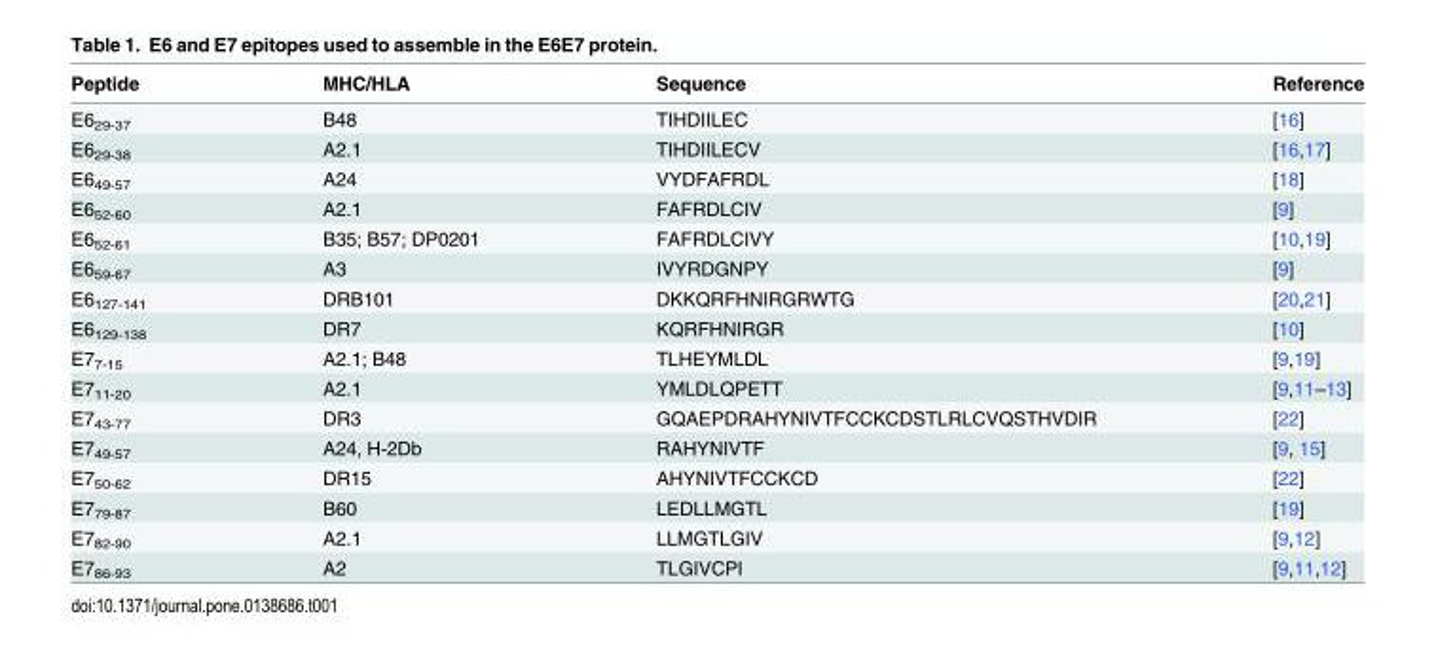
<table><thead><tr><td>Peptide</td><td>MHC/HLA</td><td>Sequence</td><td>Reference</td></tr></thead><tbody><tr><td>E6<sub>29-37</sub></td><td>B48</td><td>TIHDIILEC</td><td>[16]</td></tr><tr><td>E6<sub>29-38</sub></td><td>A2.1</td><td>TIHDIILECV</td><td>[16,17]</td></tr><tr><td>E6<sub>49-57</sub></td><td>A24</td><td>VYDFAFRDL</td><td>[18]</td></tr><tr><td>E6<sub>52-60</sub></td><td>A2.1</td><td>FAFRDLCIV</td><td>[9]</td></tr><tr><td>E6<sub>52-61</sub></td><td>B35; B57; DP0201</td><td>FAFRDLCIVY</td><td>[10,19]</td></tr><tr><td>E6<sub>59-67</sub></td><td>A3</td><td>IVYRDGNPY</td><td>[9]</td></tr><tr><td>E6<sub>127-141</sub></td><td>DRB101</td><td>DKKQRFHNIRGRWTG</td><td>[20,21]</td></tr><tr><td>E6<sub>129-138</sub></td><td>DR7</td><td>KQRFHNIRGR</td><td>[10]</td></tr><tr><td>E7<sub>7-15</sub></td><td>A2.1; B48</td><td>TLHEYMLDL</td><td>[9,19]</td></tr><tr><td>E7<sub>11-20</sub></td><td>A2.1</td><td>YMLDLQPETT</td><td>[9,11–13]</td></tr><tr><td>E7<sub>43-77</sub></td><td>DR3</td><td>GQAEPDRAHYNIVTFCCKCDSTLRLCVQSTHVDIR</td><td>[22]</td></tr><tr><td>E7<sub>49-57</sub></td><td>A24, H-2Db</td><td>RAHYNIVTF</td><td>[9, 15]</td></tr><tr><td>E7<sub>50-62</sub></td><td>DR15</td><td>AHYNIVTFCCKCD</td><td>[22]</td></tr><tr><td>E7<sub>79-87</sub></td><td>B60</td><td>LEDLLMGTL</td><td>[19]</td></tr><tr><td>E7<sub>82-90</sub></td><td>A2.1</td><td>LLMGTLGIV</td><td>[9,12]</td></tr><tr><td>E7<sub>86-93</sub></td><td>A2</td><td>TLGIVCPI</td><td>[9,11,12]</td></tr></tbody></table>